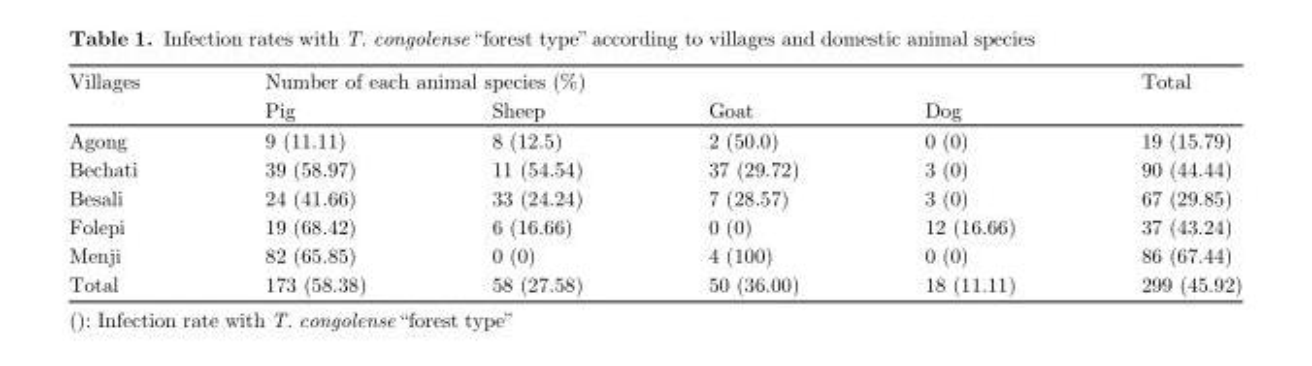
<table><thead><tr><td rowspan="2">Villages</td><td colspan="4">Number of each animal species (%)</td><td rowspan="2">Total</td></tr><tr><td>Pig</td><td>Sheep</td><td>Goat</td><td>Dog</td></tr></thead><tbody><tr><td>Agong</td><td>9 (11.11)</td><td>8 (12.5)</td><td>2 (50.0)</td><td>0 (0)</td><td>19 (15.79)</td></tr><tr><td>Bechati</td><td>39 (58.97)</td><td>11 (54.54)</td><td>37 (29.72)</td><td>3 (0)</td><td>90 (44.44)</td></tr><tr><td>Besali</td><td>24 (41.66)</td><td>33 (24.24)</td><td>7 (28.57)</td><td>3 (0)</td><td>67 (29.85)</td></tr><tr><td>Folepi</td><td>19 (68.42)</td><td>6 (16.66)</td><td>0 (0)</td><td>12 (16.66)</td><td>37 (43.24)</td></tr><tr><td>Menji</td><td>82 (65.85)</td><td>0 (0)</td><td>4 (100)</td><td>0 (0)</td><td>86 (67.44)</td></tr><tr><td>Total</td><td>173 (58.38)</td><td>58 (27.58)</td><td>50 (36.00)</td><td>18 (11.11)</td><td>299 (45.92)</td></tr></tbody></table>